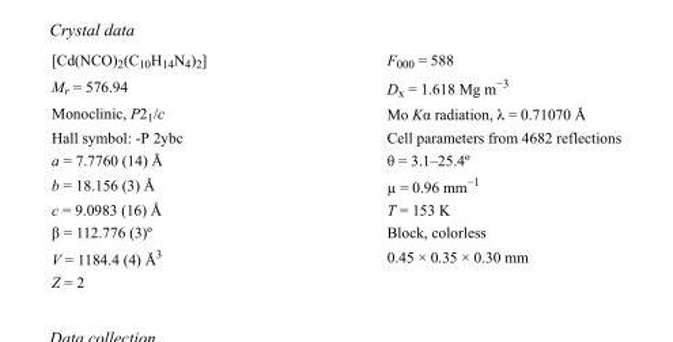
<table><tbody><tr><td>[Cd(NCO)<sub>2</sub>(C<sub>10</sub>H<sub>14</sub>N<sub>4</sub>)<sub>2</sub>]</td><td>F000 = 588</td></tr><tr><td>M<sub>r</sub> = 576.94</td><td>D<sub>x</sub> = 1.618 Mg m<sup>−3</sup></td></tr><tr><td>Monoclinic, P2<sub>1</sub>/c</td><td>Mo Kα radiation, λ = 0.71070 Å</td></tr><tr><td>Hall symbol: -P 2ybc</td><td>Cell parameters from 4682 reflections</td></tr><tr><td>a = 7.7760 (14) Å</td><td>θ = 3.1–25.4º</td></tr><tr><td>b = 18.156 (3) Å</td><td>µ = 0.96 mm<sup>−1</sup></td></tr><tr><td>c = 9.0983 (16) Å</td><td>T = 153 K</td></tr><tr><td>β = 112.776 (3)º</td><td>Block, colorless</td></tr><tr><td>V = 1184.4 (4) Å<sup>3</sup></td><td>0.45 × 0.35 × 0.30 mm</td></tr><tr><td>Z = 2</td><td></td></tr></tbody></table>